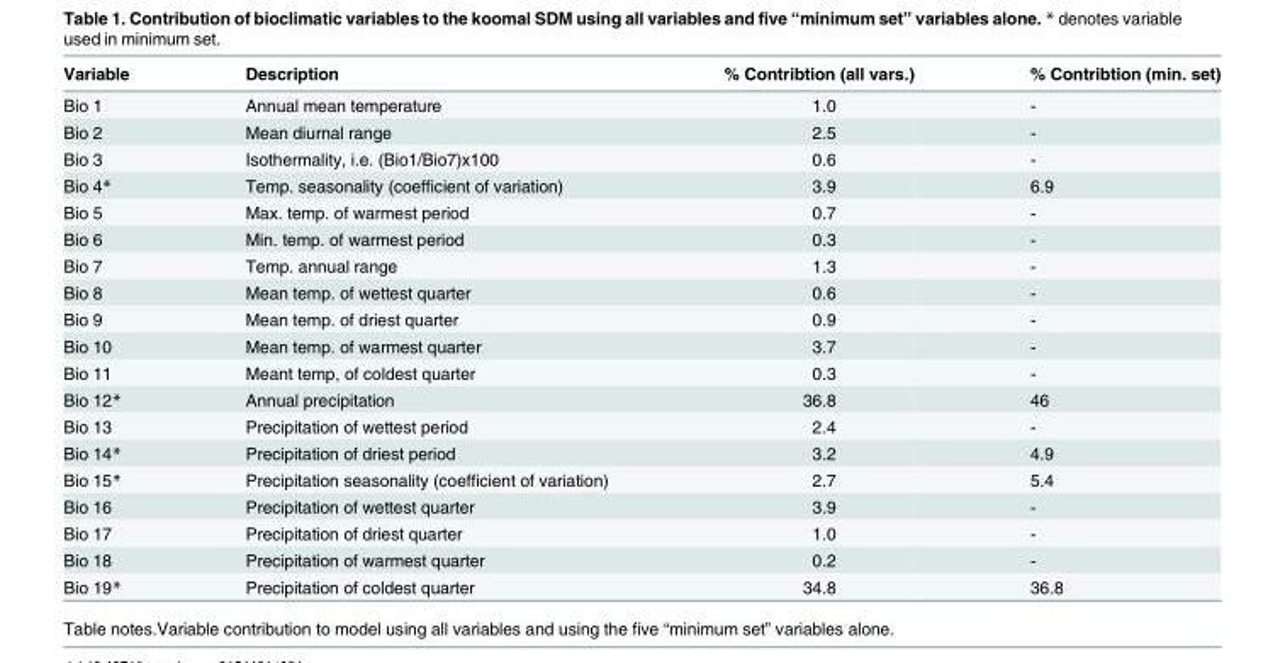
<table><thead><tr><td>Variable</td><td>Description</td><td>% Contribtion (all vars.)</td><td>% Contribtion (min. set)</td></tr></thead><tbody><tr><td>Bio 1</td><td>Annual mean temperature</td><td>1.0</td><td>-</td></tr><tr><td>Bio 2</td><td>Mean diurnal range</td><td>2.5</td><td>-</td></tr><tr><td>Bio 3</td><td>Isothermality, i.e. (Bio1/Bio7)x100</td><td>0.6</td><td>-</td></tr><tr><td>Bio 4*</td><td>Temp. seasonality (coefficient of variation)</td><td>3.9</td><td>6.9</td></tr><tr><td>Bio 5</td><td>Max. temp. of warmest period</td><td>0.7</td><td>-</td></tr><tr><td>Bio 6</td><td>Min. temp. of warmest period</td><td>0.3</td><td>-</td></tr><tr><td>Bio 7</td><td>Temp. annual range</td><td>1.3</td><td>-</td></tr><tr><td>Bio 8</td><td>Mean temp. of wettest quarter</td><td>0.6</td><td>-</td></tr><tr><td>Bio 9</td><td>Mean temp. of driest quarter</td><td>0.9</td><td>-</td></tr><tr><td>Bio 10</td><td>Mean temp. of warmest quarter</td><td>3.7</td><td>-</td></tr><tr><td>Bio 11</td><td>Meant temp, of coldest quarter</td><td>0.3</td><td>-</td></tr><tr><td>Bio 12*</td><td>Annual precipitation</td><td>36.8</td><td>46</td></tr><tr><td>Bio 13</td><td>Precipitation of wettest period</td><td>2.4</td><td>-</td></tr><tr><td>Bio 14*</td><td>Precipitation of driest period</td><td>3.2</td><td>4.9</td></tr><tr><td>Bio 15*</td><td>Precipitation seasonality (coefficient of variation)</td><td>2.7</td><td>5.4</td></tr><tr><td>Bio 16</td><td>Precipitation of wettest quarter</td><td>3.9</td><td>-</td></tr><tr><td>Bio 17</td><td>Precipitation of driest quarter</td><td>1.0</td><td>-</td></tr><tr><td>Bio 18</td><td>Precipitation of warmest quarter</td><td>0.2</td><td>-</td></tr><tr><td>Bio 19*</td><td>Precipitation of coldest quarter</td><td>34.8</td><td>36.8</td></tr></tbody></table>